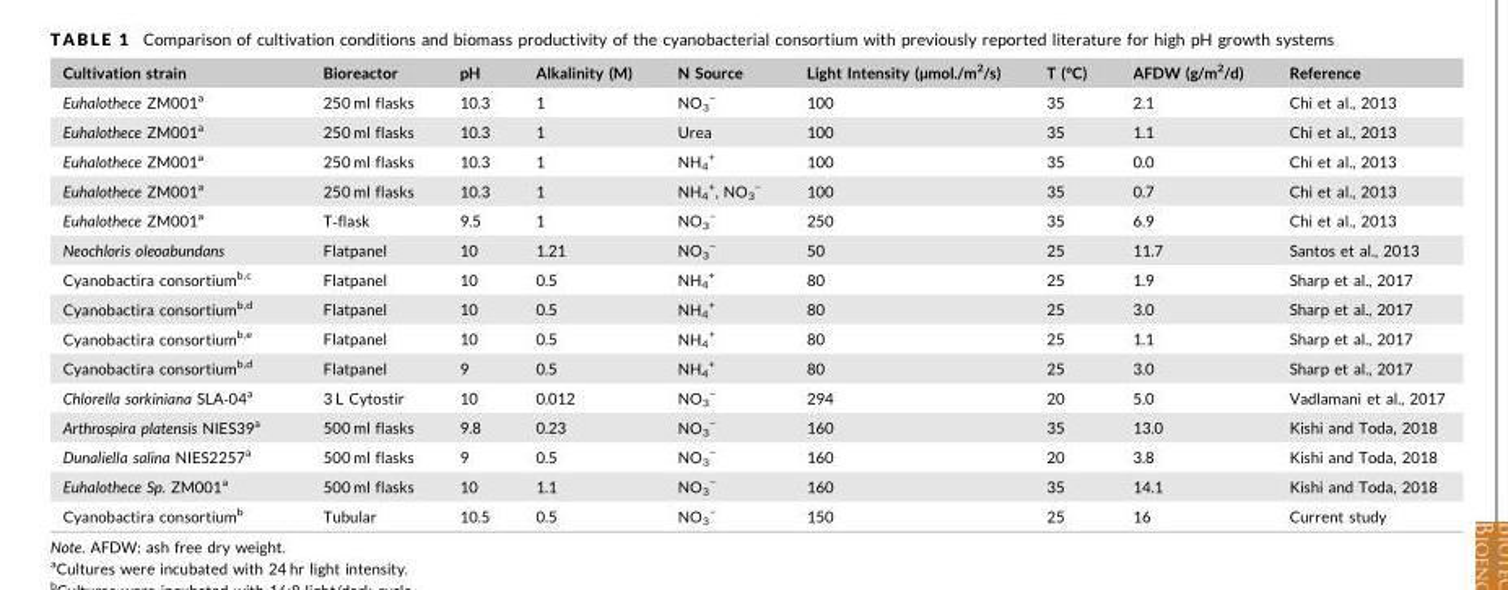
<table><thead><tr><td>Cultivation strain</td><td>Bioreactor</td><td>pH</td><td>Alkalinity (M)</td><td>N Source</td><td>Light Intensity (µmol./m<sup>2</sup>/s)</td><td>T (°C)</td><td>AFDW (g/m<sup>2</sup>/d)</td><td>Reference</td></tr></thead><tbody><tr><td>Euhalothece ZM001<sup>a</sup></td><td>250 ml flasks</td><td>10.3</td><td>1</td><td>NO<sub>3</sub> <sup>−</sup></td><td>100</td><td>35</td><td>2.1</td><td>Chi et al., 2013</td></tr><tr><td>Euhalothece ZM001<sup>a</sup></td><td>250 ml flasks</td><td>10.3</td><td>1</td><td>Urea</td><td>100</td><td>35</td><td>1.1</td><td>Chi et al., 2013</td></tr><tr><td>Euhalothece ZM001<sup>a</sup></td><td>250 ml flasks</td><td>10.3</td><td>1</td><td>NH<sub>4</sub> <sup>+</sup></td><td>100</td><td>35</td><td>0.0</td><td>Chi et al., 2013</td></tr><tr><td>Euhalothece ZM001<sup>a</sup></td><td>250 ml flasks</td><td>10.3</td><td>1</td><td>NH<sub>4</sub> <sup>+</sup>, NO<sub>3</sub> <sup>−</sup></td><td>100</td><td>35</td><td>0.7</td><td>Chi et al., 2013</td></tr><tr><td>Euhalothece ZM001<sup>a</sup></td><td>T‐flask</td><td>9.5</td><td>1</td><td>NO<sub>3</sub> <sup>−</sup></td><td>250</td><td>35</td><td>6.9</td><td>Chi et al., 2013</td></tr><tr><td>Neochloris oleoabundans</td><td>Flatpanel</td><td>10</td><td>1.21</td><td>NO<sub>3</sub> <sup>−</sup></td><td>50</td><td>25</td><td>11.7</td><td>Santos et al., 2013</td></tr><tr><td>Cyanobactira consortium<sup>b</sup>,<sup>c</sup></td><td>Flatpanel</td><td>10</td><td>0.5</td><td>NH<sub>4</sub> <sup>+</sup></td><td>80</td><td>25</td><td>1.9</td><td>Sharp et al., 2017</td></tr><tr><td>Cyanobactira consortium<sup>b</sup>,<sup>d</sup></td><td>Flatpanel</td><td>10</td><td>0.5</td><td>NH<sub>4</sub> <sup>+</sup></td><td>80</td><td>25</td><td>3.0</td><td>Sharp et al., 2017</td></tr><tr><td>Cyanobactira consortium<sup>b</sup>,<sup>e</sup></td><td>Flatpanel</td><td>10</td><td>0.5</td><td>NH<sub>4</sub> <sup>+</sup></td><td>80</td><td>25</td><td>1.1</td><td>Sharp et al., 2017</td></tr><tr><td>Cyanobactira consortium<sup>b</sup>,<sup>d</sup></td><td>Flatpanel</td><td>9</td><td>0.5</td><td>NH<sub>4</sub> <sup>+</sup></td><td>80</td><td>25</td><td>3.0</td><td>Sharp et al., 2017</td></tr><tr><td>Chlorella sorkiniana SLA‐04<sup>a</sup></td><td>3 L Cytostir</td><td>10</td><td>0.012</td><td>NO<sub>3</sub> <sup>−</sup></td><td>294</td><td>20</td><td>5.0</td><td>Vadlamani et al., 2017</td></tr><tr><td>Arthrospira platensis NIES39<sup>a</sup></td><td>500 ml flasks</td><td>9.8</td><td>0.23</td><td>NO<sub>3</sub> <sup>−</sup></td><td>160</td><td>35</td><td>13.0</td><td>Kishi and Toda, 2018</td></tr><tr><td>Dunaliella salina NIES2257<sup>a</sup></td><td>500 ml flasks</td><td>9</td><td>0.5</td><td>NO<sub>3</sub> <sup>−</sup></td><td>160</td><td>20</td><td>3.8</td><td>Kishi and Toda, 2018</td></tr><tr><td>Euhalothece Sp. ZM001<sup>a</sup></td><td>500 ml flasks</td><td>10</td><td>1.1</td><td>NO<sub>3</sub> <sup>−</sup></td><td>160</td><td>35</td><td>14.1</td><td>Kishi and Toda, 2018</td></tr><tr><td>Cyanobactira consortium<sup>b</sup></td><td>Tubular</td><td>10.5</td><td>0.5</td><td>NO<sub>3</sub> <sup>−</sup></td><td>150</td><td>25</td><td>16</td><td>Current study</td></tr></tbody></table>